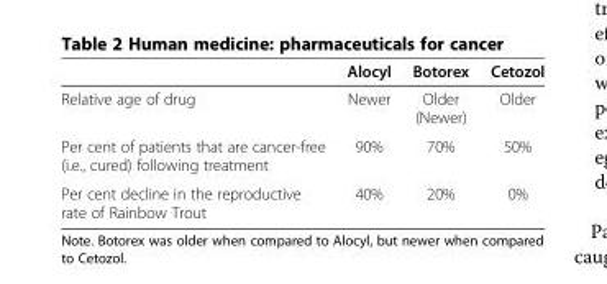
<table><thead><tr><td></td><td>Alocyl</td><td>Botorex</td><td>Cetozol</td></tr></thead><tbody><tr><td>Relative age of drug</td><td>Newer</td><td>Older (Newer)</td><td>Older</td></tr><tr><td>Per cent of patients that are cancer-free (i.e., cured) following treatment</td><td>90%</td><td>70%</td><td>50%</td></tr><tr><td>Per cent decline in the reproductive rate of Rainbow Trout</td><td>40%</td><td>20%</td><td>0%</td></tr></tbody></table>